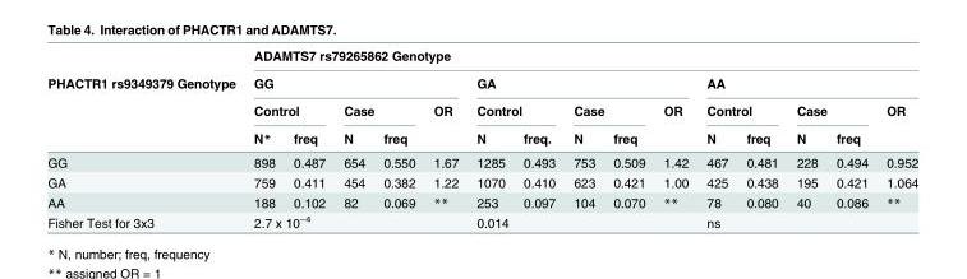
<table><thead><tr><td rowspan="4">PHACTR1 rs9349379 Genotype</td><td colspan="15">ADAMTS7 rs79265862 Genotype</td></tr><tr><td colspan="5">GG</td><td colspan="5">GA</td><td colspan="5">AA</td></tr><tr><td colspan="2">Control</td><td colspan="2">Case</td><td rowspan="2">OR</td><td colspan="2">Control</td><td colspan="2">Case</td><td rowspan="2">OR</td><td colspan="2">Control</td><td colspan="2">Case</td><td rowspan="2">OR</td></tr><tr><td>N*</td><td>freq</td><td>N</td><td>freq</td><td>N</td><td>freq.</td><td>N</td><td>freq</td><td>N</td><td>freq</td><td>N</td><td>freq</td></tr></thead><tbody><tr><td>GG</td><td>898</td><td>0.487</td><td>654</td><td>0.550</td><td>1.67</td><td>1285</td><td>0.493</td><td>753</td><td>0.509</td><td>1.42</td><td>467</td><td>0.481</td><td>228</td><td>0.494</td><td>0.952</td></tr><tr><td>GA</td><td>759</td><td>0.411</td><td>454</td><td>0.382</td><td>1.22</td><td>1070</td><td>0.410</td><td>623</td><td>0.421</td><td>1.00</td><td>425</td><td>0.438</td><td>195</td><td>0.421</td><td>1.064</td></tr><tr><td>AA</td><td>188</td><td>0.102</td><td>82</td><td>0.069</td><td>**</td><td>253</td><td>0.097</td><td>104</td><td>0.070</td><td>**</td><td>78</td><td>0.080</td><td>40</td><td>0.086</td><td>**</td></tr><tr><td>Fisher Test for 3x3</td><td colspan="5">2.7 x 10<sup>−4</sup></td><td colspan="5">0.014</td><td colspan="5">ns</td></tr></tbody></table>